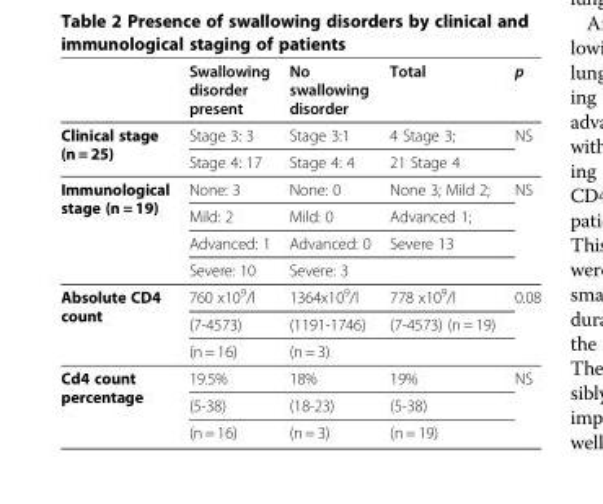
<table><thead><tr><td></td><td>Swallowing disorder present</td><td>No swallowing disorder</td><td>Total</td><td>p</td></tr></thead><tbody><tr><td rowspan="2">Clinical stage (n = 25)</td><td>Stage 3: 3</td><td>Stage 3:1</td><td>4 Stage 3;</td><td rowspan="2">NS</td></tr><tr><td>Stage 4: 17</td><td>Stage 4: 4</td><td>21 Stage 4</td></tr><tr><td rowspan="4">Immunological stage (n = 19)</td><td>None: 3</td><td>None: 0</td><td>None 3; Mild 2;</td><td rowspan="4">NS</td></tr><tr><td>Mild: 2</td><td>Mild: 0</td><td>Advanced 1;</td></tr><tr><td>Advanced: 1</td><td>Advanced: 0</td><td>Severe 13</td></tr><tr><td>Severe: 10</td><td>Severe: 3</td><td></td></tr><tr><td rowspan="3">Absolute CD4 count</td><td>760 x10<sup>9</sup>/l</td><td>1364x10<sup>9</sup>/l</td><td>778 x10<sup>9</sup>/l</td><td rowspan="3">0.08</td></tr><tr><td>(7-4573)</td><td>(1191-1746)</td><td>(7-4573) (n = 19)</td></tr><tr><td>(n = 16)</td><td>(n = 3)</td><td></td></tr><tr><td rowspan="3">Cd4 count percentage</td><td>19.5%</td><td>18%</td><td>19%</td><td rowspan="3">NS</td></tr><tr><td>(5-38)</td><td>(18-23)</td><td>(5-38)</td></tr><tr><td>(n = 16)</td><td>(n = 3)</td><td>(n = 19)</td></tr></tbody></table>